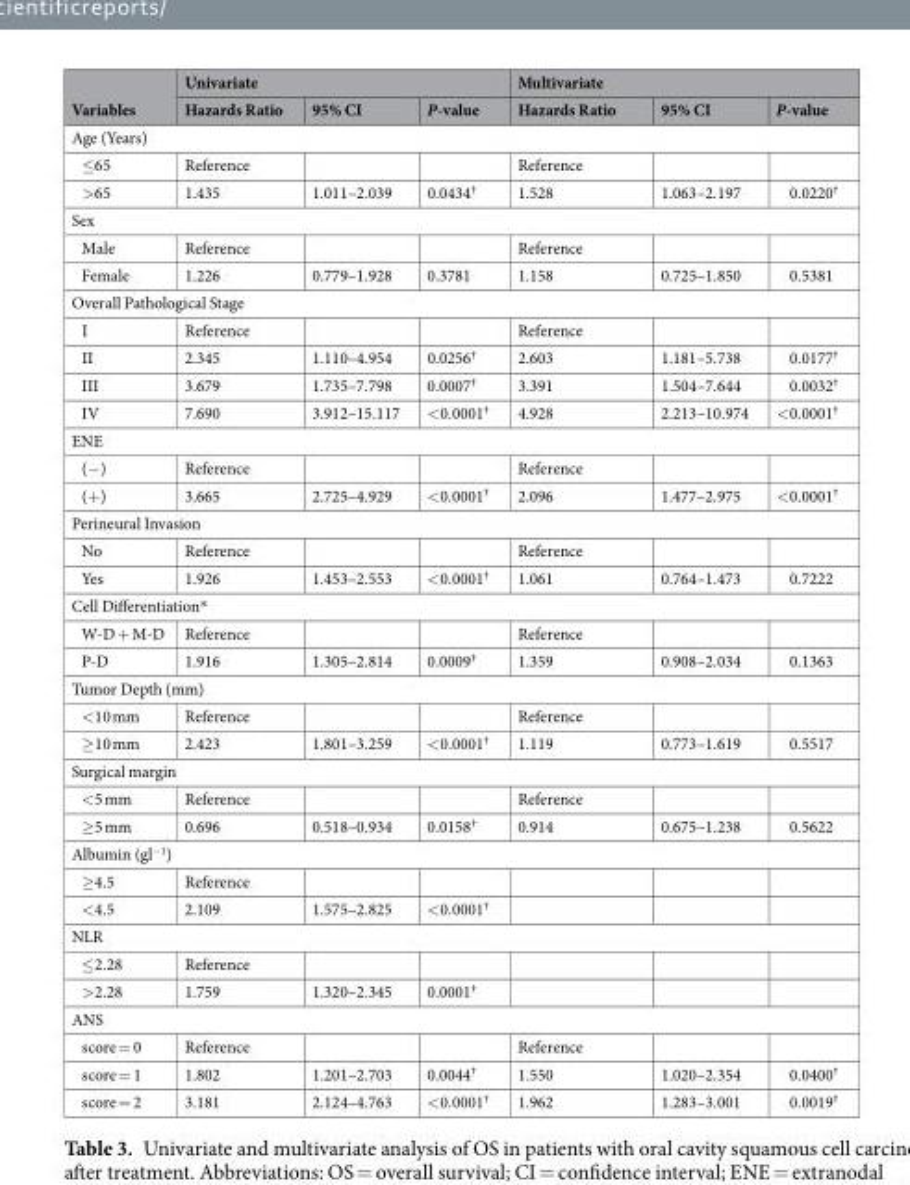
<table><thead><tr><td rowspan="2">Variables</td><td colspan="3">Univariate</td><td colspan="3">Multivariate</td></tr><tr><td>Hazards Ratio</td><td>95% CI</td><td>P-value</td><td>Hazards Ratio</td><td>95% CI</td><td>P-value</td></tr></thead><tbody><tr><td colspan="7">Age (Years)</td></tr><tr><td>≤65</td><td>Reference</td><td></td><td></td><td>Reference</td><td></td><td></td></tr><tr><td>&gt;65</td><td>1.435</td><td>1.011–2.039</td><td>0.0434<sup>†</sup></td><td>1.528</td><td>1.063–2.197</td><td>0.0220<sup>†</sup></td></tr><tr><td colspan="7">Sex</td></tr><tr><td>Male</td><td>Reference</td><td></td><td></td><td>Reference</td><td></td><td></td></tr><tr><td>Female</td><td>1.226</td><td>0.779–1.928</td><td>0.3781</td><td>1.158</td><td>0.725–1.850</td><td>0.5381</td></tr><tr><td colspan="7">Overall Pathological Stage</td></tr><tr><td>I</td><td>Reference</td><td></td><td></td><td>Reference</td><td></td><td></td></tr><tr><td>II</td><td>2.345</td><td>1.110–4.954</td><td>0.0256<sup>†</sup></td><td>2.603</td><td>1.181–5.738</td><td>0.0177<sup>†</sup></td></tr><tr><td>III</td><td>3.679</td><td>1.735–7.798</td><td>0.0007<sup>†</sup></td><td>3.391</td><td>1.504–7.644</td><td>0.0032<sup>†</sup></td></tr><tr><td>IV</td><td>7.690</td><td>3.912–15.117</td><td>&lt;0.0001<sup>†</sup></td><td>4.928</td><td>2.213–10.974</td><td>&lt;0.0001<sup>†</sup></td></tr><tr><td colspan="7">ENE</td></tr><tr><td>(−)</td><td>Reference</td><td></td><td></td><td>Reference</td><td></td><td></td></tr><tr><td>(+)</td><td>3.665</td><td>2.725–4.929</td><td>&lt;0.0001<sup>†</sup></td><td>2.096</td><td>1.477–2.975</td><td>&lt;0.0001<sup>†</sup></td></tr><tr><td colspan="7">Perineural Invasion</td></tr><tr><td>No</td><td>Reference</td><td></td><td></td><td>Reference</td><td></td><td></td></tr><tr><td>Yes</td><td>1.926</td><td>1.453–2.553</td><td>&lt;0.0001<sup>†</sup></td><td>1.061</td><td>0.764–1.473</td><td>0.7222</td></tr><tr><td colspan="7">Cell Differentiation*</td></tr><tr><td>W-D + M-D</td><td>Reference</td><td></td><td></td><td>Reference</td><td></td><td></td></tr><tr><td>P-D</td><td>1.916</td><td>1.305–2.814</td><td>0.0009<sup>†</sup></td><td>1.359</td><td>0.908–2.034</td><td>0.1363</td></tr><tr><td colspan="7">Tumor Depth (mm)</td></tr><tr><td>&lt;10 mm</td><td>Reference</td><td></td><td></td><td>Reference</td><td></td><td></td></tr><tr><td>≥10 mm</td><td>2.423</td><td>1.801–3.259</td><td>&lt;0.0001<sup>†</sup></td><td>1.119</td><td>0.773–1.619</td><td>0.5517</td></tr><tr><td colspan="7">Surgical margin</td></tr><tr><td>&lt;5 mm</td><td>Reference</td><td></td><td></td><td>Reference</td><td></td><td></td></tr><tr><td>≥5 mm</td><td>0.696</td><td>0.518–0.934</td><td>0.0158<sup>†</sup></td><td>0.914</td><td>0.675–1.238</td><td>0.5622</td></tr><tr><td colspan="7">Albumin (gl<sup>−1</sup>)</td></tr><tr><td>≥4.5</td><td>Reference</td><td></td><td></td><td></td><td></td><td></td></tr><tr><td>&lt;4.5</td><td>2.109</td><td>1.575–2.825</td><td>&lt;0.0001<sup>†</sup></td><td></td><td></td><td></td></tr><tr><td colspan="7">NLR</td></tr><tr><td>≤2.28</td><td>Reference</td><td></td><td></td><td></td><td></td><td></td></tr><tr><td>&gt;2.28</td><td>1.759</td><td>1.320–2.345</td><td>0.0001<sup>†</sup></td><td></td><td></td><td></td></tr><tr><td colspan="7">ANS</td></tr><tr><td>score = 0</td><td>Reference</td><td></td><td></td><td>Reference</td><td></td><td></td></tr><tr><td>score = 1</td><td>1.802</td><td>1.201–2.703</td><td>0.0044<sup>†</sup></td><td>1.550</td><td>1.020–2.354</td><td>0.0400<sup>†</sup></td></tr><tr><td>score = 2</td><td>3.181</td><td>2.124–4.763</td><td>&lt;0.0001<sup>†</sup></td><td>1.962</td><td>1.283–3.001</td><td>0.0019<sup>†</sup></td></tr></tbody></table>